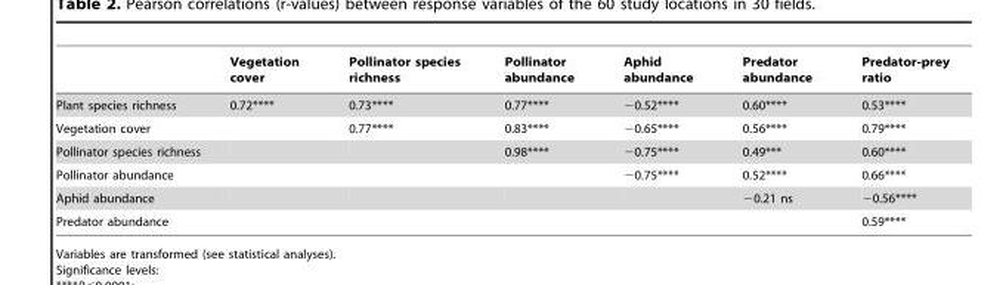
<table><thead><tr><td></td><td>Vegetation cover</td><td>Pollinator species richness</td><td>Pollinator abundance</td><td>Aphid abundance</td><td>Predator abundance</td><td>Predator-prey ratio</td></tr></thead><tbody><tr><td>Plant species richness</td><td>0.72****</td><td>0.73****</td><td>0.77****</td><td>−0.52****</td><td>0.60****</td><td>0.53****</td></tr><tr><td>Vegetation cover</td><td></td><td>0.77****</td><td>0.83****</td><td>−0.65****</td><td>0.56****</td><td>0.79****</td></tr><tr><td>Pollinator species richness</td><td></td><td></td><td>0.98****</td><td>−0.75****</td><td>0.49***</td><td>0.60****</td></tr><tr><td>Pollinator abundance</td><td></td><td></td><td></td><td>−0.75****</td><td>0.52****</td><td>0.66****</td></tr><tr><td>Aphid abundance</td><td></td><td></td><td></td><td></td><td>−0.21 ns</td><td>−0.56****</td></tr><tr><td>Predator abundance</td><td></td><td></td><td></td><td></td><td></td><td>0.59****</td></tr></tbody></table>